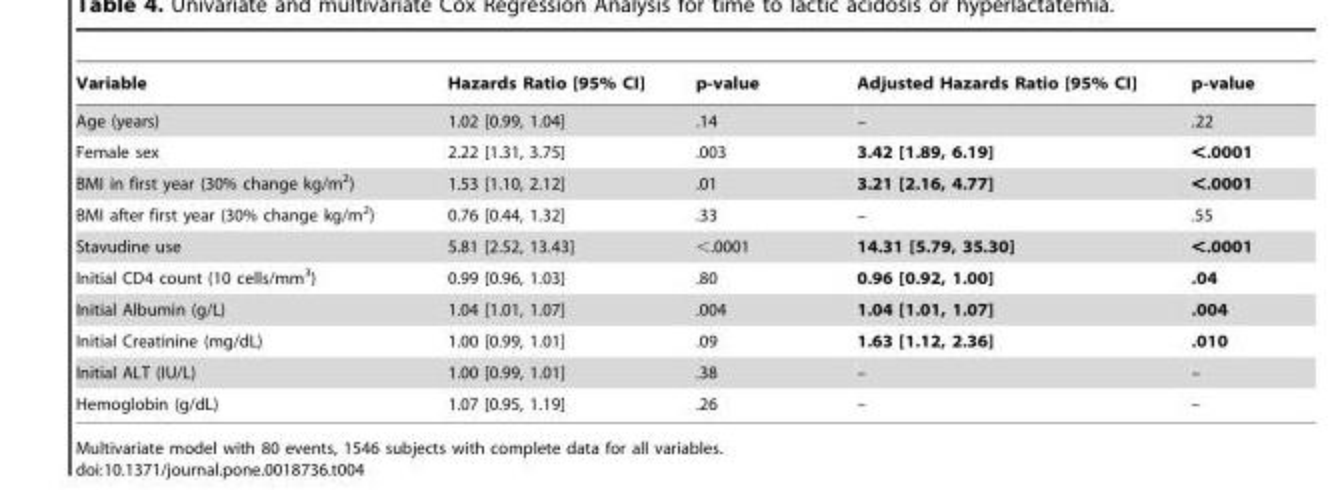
<table><thead><tr><td>Variable</td><td>Hazards Ratio [95% CI]</td><td>p-value</td><td>Adjusted Hazards Ratio [95% CI]</td><td>p-value</td></tr></thead><tbody><tr><td>Age (years)</td><td>1.02 [0.99, 1.04]</td><td>.14</td><td>–</td><td>.22</td></tr><tr><td>Female sex</td><td>2.22 [1.31, 3.75]</td><td>.003</td><td>3.42 [1.89, 6.19]</td><td>&lt;.0001</td></tr><tr><td>BMI in first year (30% change kg/m<sup>2</sup>)</td><td>1.53 [1.10, 2.12]</td><td>.01</td><td>3.21 [2.16, 4.77]</td><td>&lt;.0001</td></tr><tr><td>BMI after first year (30% change kg/m<sup>2</sup>)</td><td>0.76 [0.44, 1.32]</td><td>.33</td><td>–</td><td>.55</td></tr><tr><td>Stavudine use</td><td>5.81 [2.52, 13.43]</td><td>&lt;.0001</td><td>14.31 [5.79, 35.30]</td><td>&lt;.0001</td></tr><tr><td>Initial CD4 count (10 cells/mm<sup>3</sup>)</td><td>0.99 [0.96, 1.03]</td><td>.80</td><td>0.96 [0.92, 1.00]</td><td>.04</td></tr><tr><td>Initial Albumin (g/L)</td><td>1.04 [1.01, 1.07]</td><td>.004</td><td>1.04 [1.01, 1.07]</td><td>.004</td></tr><tr><td>Initial Creatinine (mg/dL)</td><td>1.00 [0.99, 1.01]</td><td>.09</td><td>1.63 [1.12, 2.36]</td><td>.010</td></tr><tr><td>Initial ALT (IU/L)</td><td>1.00 [0.99, 1.01]</td><td>.38</td><td>–</td><td>–</td></tr><tr><td>Hemoglobin (g/dL)</td><td>1.07 [0.95, 1.19]</td><td>.26</td><td>–</td><td>–</td></tr></tbody></table>